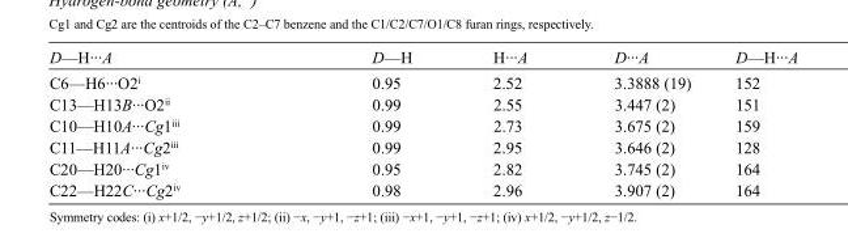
<table><tbody><tr><td>D—H···A</td><td>D—H</td><td>H···A</td><td>D···A</td><td>D—H···A</td></tr><tr><td>C6—H6···O2<sup>i</sup></td><td>0.95</td><td>2.52</td><td>3.3888 (19)</td><td>152</td></tr><tr><td>C13—H13B···O2<sup>ii</sup></td><td>0.99</td><td>2.55</td><td>3.447 (2)</td><td>151</td></tr><tr><td>C10—H10A···Cg1<sup>iii</sup></td><td>0.99</td><td>2.73</td><td>3.675 (2)</td><td>159</td></tr><tr><td>C11—H11A···Cg2<sup>iii</sup></td><td>0.99</td><td>2.95</td><td>3.646 (2)</td><td>128</td></tr><tr><td>C20—H20···Cg1<sup>iv</sup></td><td>0.95</td><td>2.82</td><td>3.745 (2)</td><td>164</td></tr><tr><td>C22—H22C···Cg2<sup>iv</sup></td><td>0.98</td><td>2.96</td><td>3.907 (2)</td><td>164</td></tr></tbody></table>